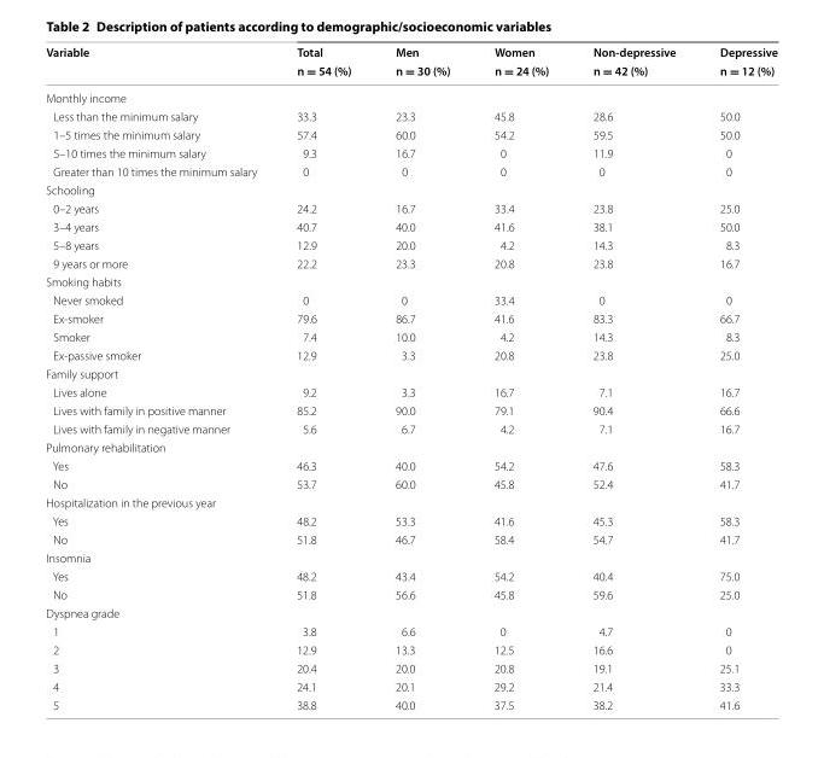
<table><thead><tr><td rowspan="2">Variable</td><td rowspan="2">Total n = 54 (%)</td><td rowspan="2">Men n = 30 (%)</td><td rowspan="2">Women n = 24 (%)</td><td rowspan="2">Non‑depressive n = 42 (%)</td><td rowspan="2">Depressive n = 12 (%)</td></tr><tr></tr></thead><tbody><tr><td colspan="6">Monthly income</td></tr><tr><td>Less than the minimum salary</td><td>33.3</td><td>23.3</td><td>45.8</td><td>28.6</td><td>50.0</td></tr><tr><td>1–5 times the minimum salary</td><td>57.4</td><td>60.0</td><td>54.2</td><td>59.5</td><td>50.0</td></tr><tr><td>5–10 times the minimum salary</td><td>9.3</td><td>16.7</td><td>0</td><td>11.9</td><td>0</td></tr><tr><td>Greater than 10 times the minimum salary</td><td>0</td><td>0</td><td>0</td><td>0</td><td>0</td></tr><tr><td colspan="6">Schooling</td></tr><tr><td>0–2 years</td><td>24.2</td><td>16.7</td><td>33.4</td><td>23.8</td><td>25.0</td></tr><tr><td>3–4 years</td><td>40.7</td><td>40.0</td><td>41.6</td><td>38.1</td><td>50.0</td></tr><tr><td>5–8 years</td><td>12.9</td><td>20.0</td><td>4.2</td><td>14.3</td><td>8.3</td></tr><tr><td>9 years or more</td><td>22.2</td><td>23.3</td><td>20.8</td><td>23.8</td><td>16.7</td></tr><tr><td colspan="6">Smoking habits</td></tr><tr><td>Never smoked</td><td>0</td><td>0</td><td>33.4</td><td>0</td><td>0</td></tr><tr><td>Ex‑smoker</td><td>79.6</td><td>86.7</td><td>41.6</td><td>83.3</td><td>66.7</td></tr><tr><td>Smoker</td><td>7.4</td><td>10.0</td><td>4.2</td><td>14.3</td><td>8.3</td></tr><tr><td>Ex‑passive smoker</td><td>12.9</td><td>3.3</td><td>20.8</td><td>23.8</td><td>25.0</td></tr><tr><td colspan="6">Family support</td></tr><tr><td>Lives alone</td><td>9.2</td><td>3.3</td><td>16.7</td><td>7.1</td><td>16.7</td></tr><tr><td>Lives with family in positive manner</td><td>85.2</td><td>90.0</td><td>79.1</td><td>90.4</td><td>66.6</td></tr><tr><td>Lives with family in negative manner</td><td>5.6</td><td>6.7</td><td>4.2</td><td>7.1</td><td>16.7</td></tr><tr><td colspan="6">Pulmonary rehabilitation</td></tr><tr><td>Yes</td><td>46.3</td><td>40.0</td><td>54.2</td><td>47.6</td><td>58.3</td></tr><tr><td>No</td><td>53.7</td><td>60.0</td><td>45.8</td><td>52.4</td><td>41.7</td></tr><tr><td colspan="6">Hospitalization in the previous year</td></tr><tr><td>Yes</td><td>48.2</td><td>53.3</td><td>41.6</td><td>45.3</td><td>58.3</td></tr><tr><td>No</td><td>51.8</td><td>46.7</td><td>58.4</td><td>54.7</td><td>41.7</td></tr><tr><td colspan="6">Insomnia</td></tr><tr><td>Yes</td><td>48.2</td><td>43.4</td><td>54.2</td><td>40.4</td><td>75.0</td></tr><tr><td>No</td><td>51.8</td><td>56.6</td><td>45.8</td><td>59.6</td><td>25.0</td></tr><tr><td colspan="6">Dyspnea grade</td></tr><tr><td>1</td><td>3.8</td><td>6.6</td><td>0</td><td>4.7</td><td>0</td></tr><tr><td>2</td><td>12.9</td><td>13.3</td><td>12.5</td><td>16.6</td><td>0</td></tr><tr><td>3</td><td>20.4</td><td>20.0</td><td>20.8</td><td>19.1</td><td>25.1</td></tr><tr><td>4</td><td>24.1</td><td>20.1</td><td>29.2</td><td>21.4</td><td>33.3</td></tr><tr><td>5</td><td>38.8</td><td>40.0</td><td>37.5</td><td>38.2</td><td>41.6</td></tr></tbody></table>